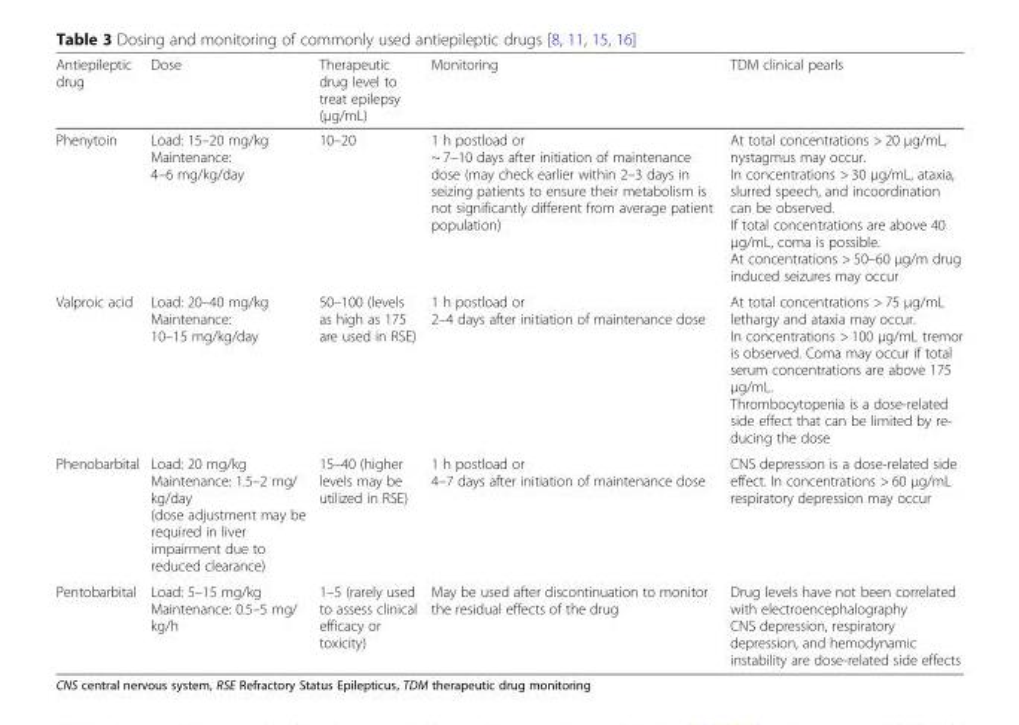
<table><thead><tr><td>Antiepileptic drug</td><td>Dose</td><td>Therapeutic drug level to treat epilepsy (μg/mL)</td><td>Monitoring</td><td>TDM clinical pearls</td></tr></thead><tbody><tr><td>Phenytoin</td><td>Load: 15–20 mg/kg Maintenance: 4–6 mg/kg/day</td><td>10–20</td><td>1 h postload or ~ 7–10 days after initiation of maintenance dose (may check earlier within 2–3 days in seizing patients to ensure their metabolism is not significantly different from average patient population)</td><td>At total concentrations &gt; 20 μg/mL, nystagmus may occur. In concentrations &gt; 30 μg/mL, ataxia, slurred speech, and incoordination can be observed. If total concentrations are above 40 μg/mL, coma is possible. At concentrations &gt; 50–60 μg/m drug induced seizures may occur</td></tr><tr><td>Valproic acid</td><td>Load: 20–40 mg/kg Maintenance: 10–15 mg/kg/day</td><td>50–100 (levels as high as 175 are used in RSE)</td><td>1 h postload or 2–4 days after initiation of maintenance dose</td><td>At total concentrations &gt; 75 μg/mL lethargy and ataxia may occur. In concentrations &gt; 100 μg/mL tremor is observed. Coma may occur if total serum concentrations are above 175 μg/mL. Thrombocytopenia is a dose-related side effect that can be limited by re- ducing the dose</td></tr><tr><td>Phenobarbital</td><td>Load: 20 mg/kg Maintenance: 1.5–2 mg/ kg/day (dose adjustment may be required in liver impairment due to reduced clearance)</td><td>15–40 (higher levels may be utilized in RSE)</td><td>1 h postload or 4–7 days after initiation of maintenance dose</td><td>CNS depression is a dose-related side effect. In concentrations &gt; 60 μg/mL respiratory depression may occur</td></tr><tr><td>Pentobarbital</td><td>Load: 5–15 mg/kg Maintenance: 0.5–5 mg/ kg/h</td><td>1–5 (rarely used to assess clinical efficacy or toxicity)</td><td>May be used after discontinuation to monitor the residual effects of the drug</td><td>Drug levels have not been correlated with electroencephalography CNS depression, respiratory depression, and hemodynamic instability are dose-related side effects</td></tr></tbody></table>